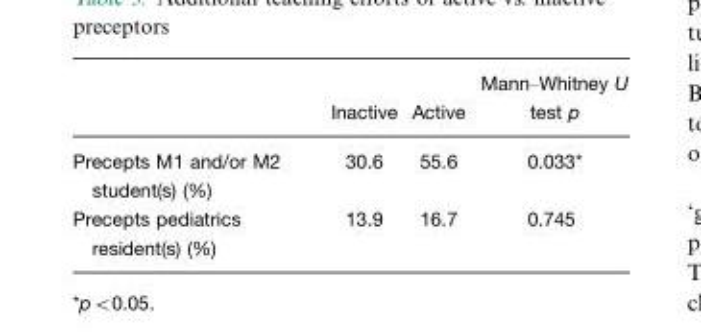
<table><thead><tr><td></td><td>Inactive</td><td>Active</td><td>Mann–Whitney U test p</td></tr></thead><tbody><tr><td>Precepts M1 and/or M2 student(s) (%)</td><td>30.6</td><td>55.6</td><td>0.033*</td></tr><tr><td>Precepts pediatrics resident(s) (%)</td><td>13.9</td><td>16.7</td><td>0.745</td></tr></tbody></table>